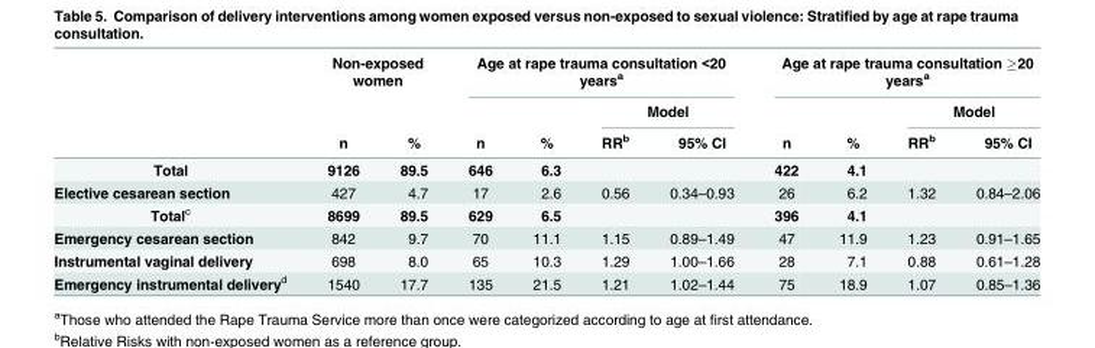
<table><thead><tr><td rowspan="3"></td><td colspan="2">Non-exposed women</td><td colspan="4">Age at rape trauma consultation &lt;20 years<sup>a</sup></td><td colspan="4">Age at rape trauma consultation ≥20 years<sup>a</sup></td></tr><tr><td rowspan="2">n</td><td rowspan="2">%</td><td rowspan="2">n</td><td rowspan="2">%</td><td colspan="2">Model</td><td rowspan="2">n</td><td rowspan="2">%</td><td colspan="2">Model</td></tr><tr><td>RR<sup>b</sup></td><td>95% CI</td><td>RR<sup>b</sup></td><td>95% CI</td></tr></thead><tbody><tr><td>Total</td><td>9126</td><td>89.5</td><td>646</td><td>6.3</td><td></td><td></td><td>422</td><td>4.1</td><td></td><td></td></tr><tr><td>Elective cesarean section</td><td>427</td><td>4.7</td><td>17</td><td>2.6</td><td>0.56</td><td>0.34–0.93</td><td>26</td><td>6.2</td><td>1.32</td><td>0.84–2.06</td></tr><tr><td>Total<sup>c</sup></td><td>8699</td><td>89.5</td><td>629</td><td>6.5</td><td></td><td></td><td>396</td><td>4.1</td><td></td><td></td></tr><tr><td>Emergency cesarean section</td><td>842</td><td>9.7</td><td>70</td><td>11.1</td><td>1.15</td><td>0.89–1.49</td><td>47</td><td>11.9</td><td>1.23</td><td>0.91–1.65</td></tr><tr><td>Instrumental vaginal delivery</td><td>698</td><td>8.0</td><td>65</td><td>10.3</td><td>1.29</td><td>1.00–1.66</td><td>28</td><td>7.1</td><td>0.88</td><td>0.61–1.28</td></tr><tr><td>Emergency instrumental delivery<sup>d</sup></td><td>1540</td><td>17.7</td><td>135</td><td>21.5</td><td>1.21</td><td>1.02–1.44</td><td>75</td><td>18.9</td><td>1.07</td><td>0.85–1.36</td></tr></tbody></table>